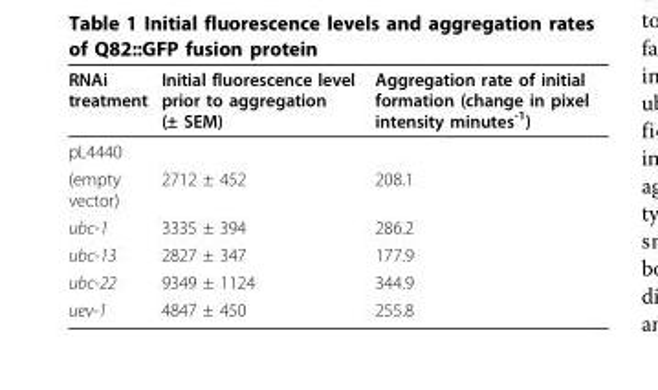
<table><thead><tr><td>RNAi treatment</td><td>Initial fluorescence level prior to aggregation (± SEM)</td><td>Aggregation rate of initial formation (change in pixel intensity minutes<sup>-1</sup>)</td></tr></thead><tbody><tr><td colspan="3">pL4440</td></tr><tr><td>(empty vector)</td><td>2712 ± 452</td><td>208.1</td></tr><tr><td>ubc-1</td><td>3335 ± 394</td><td>286.2</td></tr><tr><td>ubc-13</td><td>2827 ± 347</td><td>177.9</td></tr><tr><td>ubc-22</td><td>9349 ± 1124</td><td>344.9</td></tr><tr><td>uev-1</td><td>4847 ± 450</td><td>255.8</td></tr></tbody></table>